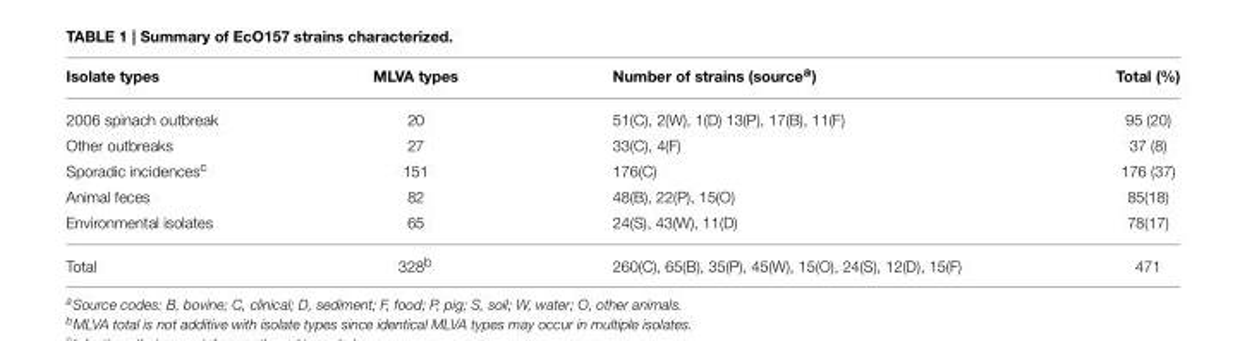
<table><thead><tr><td>Isolate types</td><td>MLVA types</td><td>Number of strains (source<sup>a</sup>)</td><td>Total (%)</td></tr></thead><tbody><tr><td>2006 spinach outbreak</td><td>20</td><td>51(C), 2(W), 1(D) 13(P), 17(B), 11(F)</td><td>95 (20)</td></tr><tr><td>Other outbreaks</td><td>27</td><td>33(C), 4(F)</td><td>37 (8)</td></tr><tr><td>Sporadic incidences<sup>c</sup></td><td>151</td><td>176(C)</td><td>176 (37)</td></tr><tr><td>Animal feces</td><td>82</td><td>48(B), 22(P), 15(O)</td><td>85(18)</td></tr><tr><td>Environmental isolates</td><td>65</td><td>24(S), 43(W), 11(D)</td><td>78(17)</td></tr><tr><td>Total</td><td>328<sup>b</sup></td><td>260(C), 65(B), 35(P), 45(W), 15(O), 24(S), 12(D), 15(F)</td><td>471</td></tr></tbody></table>